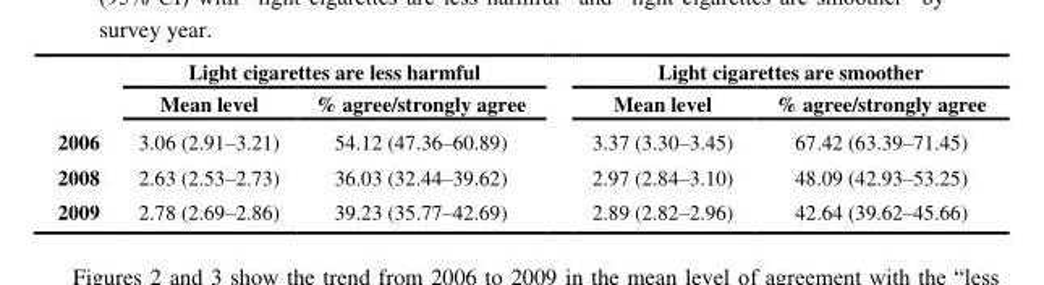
<table><thead><tr><td rowspan="2"></td><td colspan="2">Light cigarettes are less harmful</td><td colspan="2">Light cigarettes are smoother</td></tr><tr><td>Mean level</td><td>% agree/strongly agree</td><td>Mean level</td><td>% agree/strongly agree</td></tr></thead><tbody><tr><td>2006</td><td>3.06 (2.91–3.21)</td><td>54.12 (47.36–60.89)</td><td>3.37 (3.30–3.45)</td><td>67.42 (63.39–71.45)</td></tr><tr><td>2008</td><td>2.63 (2.53–2.73)</td><td>36.03 (32.44–39.62)</td><td>2.97 (2.84–3.10)</td><td>48.09 (42.93–53.25)</td></tr><tr><td>2009</td><td>2.78 (2.69–2.86)</td><td>39.23 (35.77–42.69)</td><td>2.89 (2.82–2.96)</td><td>42.64 (39.62–45.66)</td></tr></tbody></table>